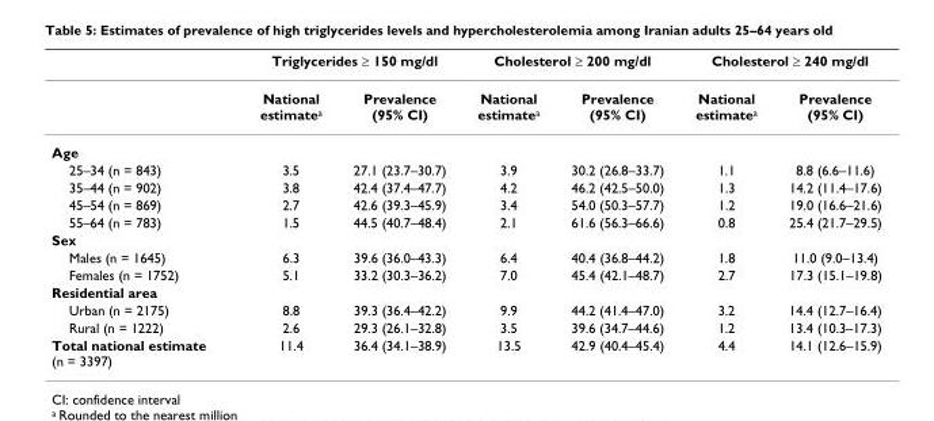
<table><thead><tr><td rowspan="2"></td><td colspan="2">Triglycerides ≥ 150 mg/dl</td><td colspan="2">Cholesterol ≥ 200 mg/dl</td><td colspan="2">Cholesterol ≥ 240 mg/dl</td></tr><tr><td>National estimate<sup>a</sup></td><td>Prevalence (95% CI)</td><td>National estimate<sup>a</sup></td><td>Prevalence (95% CI)</td><td>National estimate<sup>a</sup></td><td>Prevalence (95% CI)</td></tr></thead><tbody><tr><td colspan="7">Age</td></tr><tr><td>25–34 (n = 843)</td><td>3.5</td><td>27.1 (23.7–30.7)</td><td>3.9</td><td>30.2 (26.8–33.7)</td><td>1.1</td><td>8.8 (6.6–11.6)</td></tr><tr><td>35–44 (n = 902)</td><td>3.8</td><td>42.4 (37.4–47.7)</td><td>4.2</td><td>46.2 (42.5–50.0)</td><td>1.3</td><td>14.2 (11.4–17.6)</td></tr><tr><td>45–54 (n = 869)</td><td>2.7</td><td>42.6 (39.3–45.9)</td><td>3.4</td><td>54.0 (50.3–57.7)</td><td>1.2</td><td>19.0 (16.6–21.6)</td></tr><tr><td>55–64 (n = 783)</td><td>1.5</td><td>44.5 (40.7–48.4)</td><td>2.1</td><td>61.6 (56.3–66.6)</td><td>0.8</td><td>25.4 (21.7–29.5)</td></tr><tr><td colspan="7">Sex</td></tr><tr><td>Males (n = 1645)</td><td>6.3</td><td>39.6 (36.0–43.3)</td><td>6.4</td><td>40.4 (36.8–44.2)</td><td>1.8</td><td>11.0 (9.0–13.4)</td></tr><tr><td>Females (n = 1752)</td><td>5.1</td><td>33.2 (30.3–36.2)</td><td>7.0</td><td>45.4 (42.1–48.7)</td><td>2.7</td><td>17.3 (15.1–19.8)</td></tr><tr><td colspan="7">Residential area</td></tr><tr><td>Urban (n = 2175)</td><td>8.8</td><td>39.3 (36.4–42.2)</td><td>9.9</td><td>44.2 (41.4–47.0)</td><td>3.2</td><td>14.4 (12.7–16.4)</td></tr><tr><td>Rural (n = 1222)</td><td>2.6</td><td>29.3 (26.1–32.8)</td><td>3.5</td><td>39.6 (34.7–44.6)</td><td>1.2</td><td>13.4 (10.3–17.3)</td></tr><tr><td>Total national estimate (n = 3397)</td><td>11.4</td><td>36.4 (34.1–38.9)</td><td>13.5</td><td>42.9 (40.4–45.4)</td><td>4.4</td><td>14.1 (12.6–15.9)</td></tr></tbody></table>